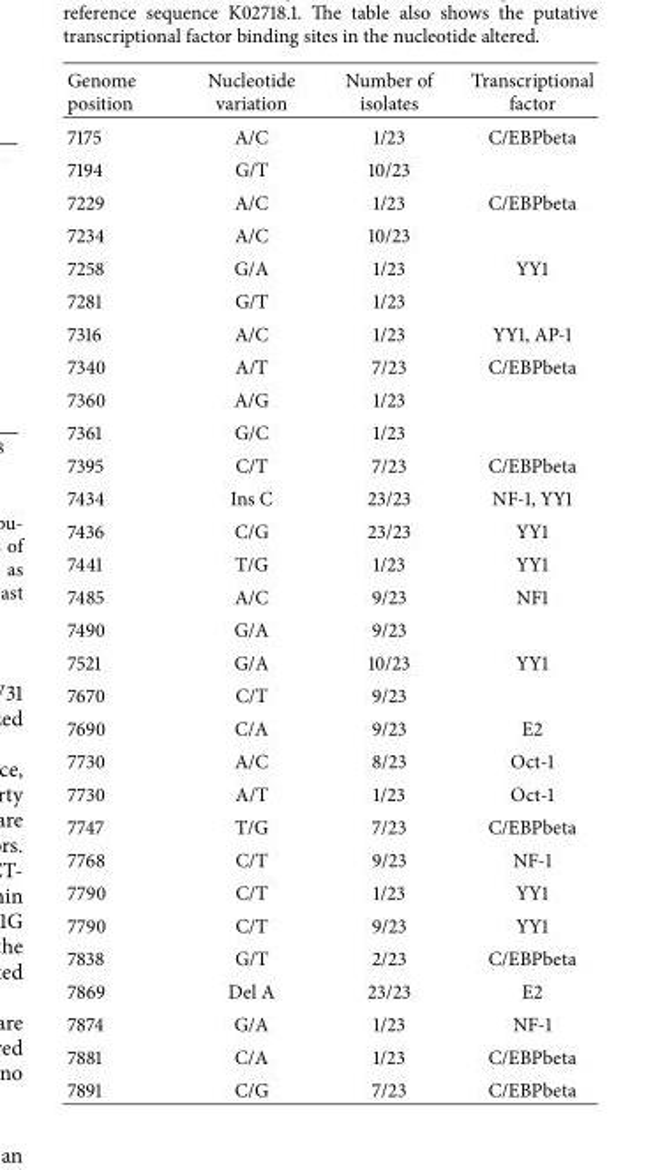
<table><thead><tr><td>Genome position</td><td>Nucleotide variation</td><td>Number of isolates</td><td>Transcriptional factor</td></tr></thead><tbody><tr><td>7175</td><td>A/C</td><td>1/23</td><td>C/EBPbeta</td></tr><tr><td>7194</td><td>G/T</td><td>10/23</td><td></td></tr><tr><td>7229</td><td>A/C</td><td>1/23</td><td>C/EBPbeta</td></tr><tr><td>7234</td><td>A/C</td><td>10/23</td><td></td></tr><tr><td>7258</td><td>G/A</td><td>1/23</td><td>YY1</td></tr><tr><td>7281</td><td>G/T</td><td>1/23</td><td></td></tr><tr><td>7316</td><td>A/C</td><td>1/23</td><td>YY1, AP-1</td></tr><tr><td>7340</td><td>A/T</td><td>7/23</td><td>C/EBPbeta</td></tr><tr><td>7360</td><td>A/G</td><td>1/23</td><td></td></tr><tr><td>7361</td><td>G/C</td><td>1/23</td><td></td></tr><tr><td>7395</td><td>C/T</td><td>7/23</td><td>C/EBPbeta</td></tr><tr><td>7434</td><td>Ins C</td><td>23/23</td><td>NF-1, YY1</td></tr><tr><td>7436</td><td>C/G</td><td>23/23</td><td>YY1</td></tr><tr><td>7441</td><td>T/G</td><td>1/23</td><td>YY1</td></tr><tr><td>7485</td><td>A/C</td><td>9/23</td><td>NF1</td></tr><tr><td>7490</td><td>G/A</td><td>9/23</td><td></td></tr><tr><td>7521</td><td>G/A</td><td>10/23</td><td>YY1</td></tr><tr><td>7670</td><td>C/T</td><td>9/23</td><td></td></tr><tr><td>7690</td><td>C/A</td><td>9/23</td><td>E2</td></tr><tr><td>7730</td><td>A/C</td><td>8/23</td><td>Oct-1</td></tr><tr><td>7730</td><td>A/T</td><td>1/23</td><td>Oct-1</td></tr><tr><td>7747</td><td>T/G</td><td>7/23</td><td>C/EBPbeta</td></tr><tr><td>7768</td><td>C/T</td><td>9/23</td><td>NF-1</td></tr><tr><td>7790</td><td>C/T</td><td>1/23</td><td>YY1</td></tr><tr><td>7790</td><td>C/T</td><td>9/23</td><td>YY1</td></tr><tr><td>7838</td><td>G/T</td><td>2/23</td><td>C/EBPbeta</td></tr><tr><td>7869</td><td>Del A</td><td>23/23</td><td>E2</td></tr><tr><td>7874</td><td>G/A</td><td>1/23</td><td>NF-1</td></tr><tr><td>7881</td><td>C/A</td><td>1/23</td><td>C/EBPbeta</td></tr><tr><td>7891</td><td>C/G</td><td>7/23</td><td>C/EBPbeta</td></tr></tbody></table>